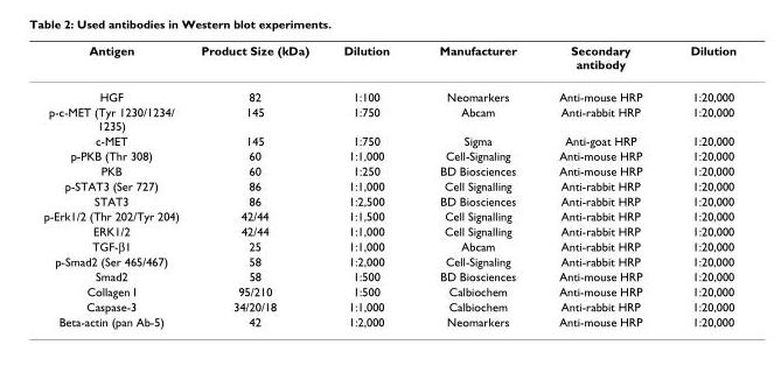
<table><thead><tr><td>Antigen</td><td>Product Size (kDa)</td><td>Dilution</td><td>Manufacturer</td><td>Secondary antibody</td><td>Dilution</td></tr></thead><tbody><tr><td>HGF</td><td>82</td><td>1:100</td><td>Neomarkers</td><td>Anti-mouse HRP</td><td>1:20,000</td></tr><tr><td>p-c-MET (Tyr 1230/1234/ 1235)</td><td>145</td><td>1:750</td><td>Abcam</td><td>Anti-rabbit HRP</td><td>1:20,000</td></tr><tr><td>c-MET</td><td>145</td><td>1:750</td><td>Sigma</td><td>Anti-goat HRP</td><td>1:20,000</td></tr><tr><td>p-PKB (Thr 308)</td><td>60</td><td>1:1,000</td><td>Cell-Signaling</td><td>Anti-mouse HRP</td><td>1:20,000</td></tr><tr><td>PKB</td><td>60</td><td>1:250</td><td>BD Biosciences</td><td>Anti-mouse HRP</td><td>1:20,000</td></tr><tr><td>p-STAT3 (Ser 727)</td><td>86</td><td>1:1,000</td><td>Cell Signalling</td><td>Anti-rabbit HRP</td><td>1:20,000</td></tr><tr><td>STAT3</td><td>86</td><td>1:2,500</td><td>BD Biosciences</td><td>Anti-rabbit HRP</td><td>1:20,000</td></tr><tr><td>p-Erk1/2 (Thr 202/Tyr 204)</td><td>42/44</td><td>1:1,500</td><td>Cell Signalling</td><td>Anti-rabbit HRP</td><td>1:20,000</td></tr><tr><td>ERK1/2</td><td>42/44</td><td>1:1,000</td><td>Cell Signalling</td><td>Anti-rabbit HRP</td><td>1:20,000</td></tr><tr><td>TGF-β1</td><td>25</td><td>1:1,000</td><td>Abcam</td><td>Anti-rabbit HRP</td><td>1:20,000</td></tr><tr><td>p-Smad2 (Ser 465/467)</td><td>58</td><td>1:2,000</td><td>Cell-Signaling</td><td>Anti-rabbit HRP</td><td>1:20,000</td></tr><tr><td>Smad2</td><td>58</td><td>1:500</td><td>BD Biosciences</td><td>Anti-mouse HRP</td><td>1:20,000</td></tr><tr><td>Collagen I</td><td>95/210</td><td>1:500</td><td>Calbiochem</td><td>Anti-mouse HRP</td><td>1:20,000</td></tr><tr><td>Caspase-3</td><td>34/20/18</td><td>1:1,000</td><td>Calbiochem</td><td>Anti-rabbit HRP</td><td>1:20,000</td></tr><tr><td>Beta-actin (pan Ab-5)</td><td>42</td><td>1:2,000</td><td>Neomarkers</td><td>Anti-mouse HRP</td><td>1:20,000</td></tr></tbody></table>